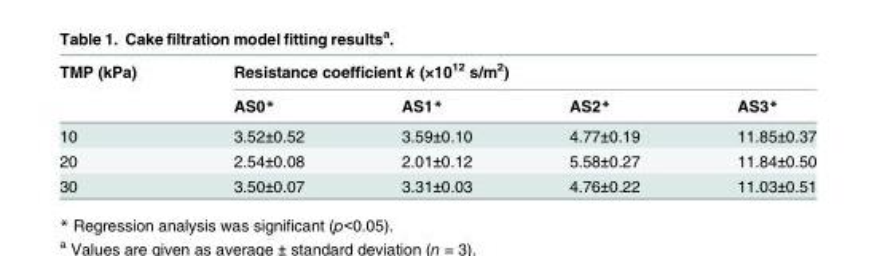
<table><thead><tr><td rowspan="2">TMP (kPa)</td><td colspan="4">Resistance coefficient k (×10<sup>12</sup> s/m<sup>2</sup>)</td></tr><tr><td>AS0*</td><td>AS1*</td><td>AS2*</td><td>AS3*</td></tr></thead><tbody><tr><td>10</td><td>3.52±0.52</td><td>3.59±0.10</td><td>4.77±0.19</td><td>11.85±0.37</td></tr><tr><td>20</td><td>2.54±0.08</td><td>2.01±0.12</td><td>5.58±0.27</td><td>11.84±0.50</td></tr><tr><td>30</td><td>3.50±0.07</td><td>3.31±0.03</td><td>4.76±0.22</td><td>11.03±0.51</td></tr></tbody></table>